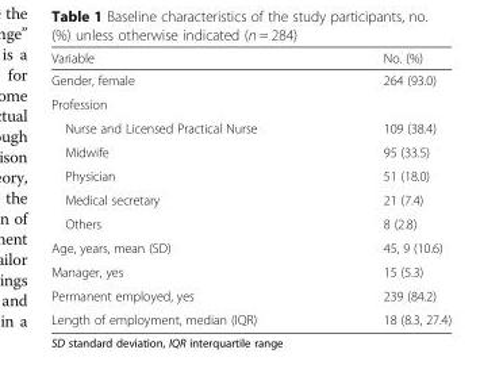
<table><thead><tr><td>Variable</td><td>No. (%)</td></tr></thead><tbody><tr><td>Gender, female</td><td>264 (93.0)</td></tr><tr><td colspan="2">Profession</td></tr><tr><td>Nurse and Licensed Practical Nurse</td><td>109 (38.4)</td></tr><tr><td>Midwife</td><td>95 (33.5)</td></tr><tr><td>Physician</td><td>51 (18.0)</td></tr><tr><td>Medical secretary</td><td>21 (7.4)</td></tr><tr><td>Others</td><td>8 (2.8)</td></tr><tr><td>Age, years, mean (SD)</td><td>45, 9 (10.6)</td></tr><tr><td>Manager, yes</td><td>15 (5.3)</td></tr><tr><td>Permanent employed, yes</td><td>239 (84.2)</td></tr><tr><td>Length of employment, median (IQR)</td><td>18 (8.3, 27.4)</td></tr></tbody></table>